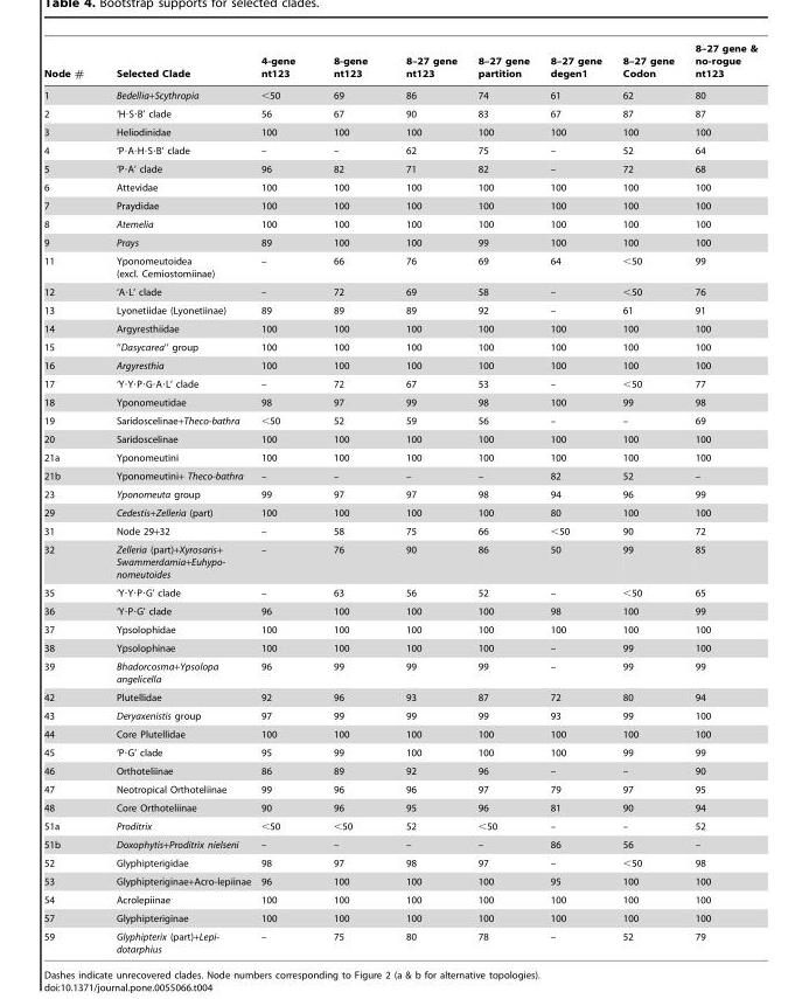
<table><thead><tr><td>Node #</td><td>Selected Clade</td><td>4-gene nt123</td><td>8-gene nt123</td><td>8–27 gene nt123</td><td>8–27 gene partition</td><td>8–27 gene degen1</td><td>8–27 gene Codon</td><td>8–27 gene &amp; no-rogue nt123</td></tr></thead><tbody><tr><td>1</td><td>Bedellia+Scythropia</td><td>&lt;50</td><td>69</td><td>86</td><td>74</td><td>61</td><td>62</td><td>80</td></tr><tr><td>2</td><td>‘H·S·B’ clade</td><td>56</td><td>67</td><td>90</td><td>83</td><td>67</td><td>87</td><td>87</td></tr><tr><td>3</td><td>Heliodinidae</td><td>100</td><td>100</td><td>100</td><td>100</td><td>100</td><td>100</td><td>100</td></tr><tr><td>4</td><td>‘P·A·H·S·B’ clade</td><td>–</td><td>–</td><td>62</td><td>75</td><td>–</td><td>52</td><td>64</td></tr><tr><td>5</td><td>‘P·A’ clade</td><td>96</td><td>82</td><td>71</td><td>82</td><td>–</td><td>72</td><td>68</td></tr><tr><td>6</td><td>Attevidae</td><td>100</td><td>100</td><td>100</td><td>100</td><td>100</td><td>100</td><td>100</td></tr><tr><td>7</td><td>Praydidae</td><td>100</td><td>100</td><td>100</td><td>100</td><td>100</td><td>100</td><td>100</td></tr><tr><td>8</td><td>Atemelia</td><td>100</td><td>100</td><td>100</td><td>100</td><td>100</td><td>100</td><td>100</td></tr><tr><td>9</td><td>Prays</td><td>89</td><td>100</td><td>100</td><td>99</td><td>100</td><td>100</td><td>100</td></tr><tr><td>11</td><td>Yponomeutoidea (excl. Cemiostomiinae)</td><td>–</td><td>66</td><td>76</td><td>69</td><td>64</td><td>&lt;50</td><td>99</td></tr><tr><td>12</td><td>‘A·L’ clade</td><td>–</td><td>72</td><td>69</td><td>58</td><td>–</td><td>&lt;50</td><td>76</td></tr><tr><td>13</td><td>Lyonetiidae (Lyonetiinae)</td><td>89</td><td>89</td><td>89</td><td>92</td><td>–</td><td>61</td><td>91</td></tr><tr><td>14</td><td>Argyresthiidae</td><td>100</td><td>100</td><td>100</td><td>100</td><td>100</td><td>100</td><td>100</td></tr><tr><td>15</td><td>‘‘Dasycarea’’ group</td><td>100</td><td>100</td><td>100</td><td>100</td><td>100</td><td>100</td><td>100</td></tr><tr><td>16</td><td>Argyresthia</td><td>100</td><td>100</td><td>100</td><td>100</td><td>100</td><td>100</td><td>100</td></tr><tr><td>17</td><td>‘Y·Y·P·G·A·L’ clade</td><td>–</td><td>72</td><td>67</td><td>53</td><td>–</td><td>&lt;50</td><td>77</td></tr><tr><td>18</td><td>Yponomeutidae</td><td>98</td><td>97</td><td>99</td><td>98</td><td>100</td><td>99</td><td>98</td></tr><tr><td>19</td><td>Saridoscelinae+Theco-bathra</td><td>&lt;50</td><td>52</td><td>59</td><td>56</td><td>–</td><td>–</td><td>69</td></tr><tr><td>20</td><td>Saridoscelinae</td><td>100</td><td>100</td><td>100</td><td>100</td><td>100</td><td>100</td><td>100</td></tr><tr><td>21a</td><td>Yponomeutini</td><td>100</td><td>100</td><td>100</td><td>100</td><td>100</td><td>100</td><td>100</td></tr><tr><td>21b</td><td>Yponomeutini+ Theco-bathra</td><td>–</td><td>–</td><td>–</td><td>–</td><td>82</td><td>52</td><td>–</td></tr><tr><td>23</td><td>Yponomeuta group</td><td>99</td><td>97</td><td>97</td><td>98</td><td>94</td><td>96</td><td>99</td></tr><tr><td>29</td><td>Cedestis+Zelleria (part)</td><td>100</td><td>100</td><td>100</td><td>100</td><td>80</td><td>100</td><td>100</td></tr><tr><td>31</td><td>Node 29+32</td><td>–</td><td>58</td><td>75</td><td>66</td><td>&lt;50</td><td>90</td><td>72</td></tr><tr><td>32</td><td>Zelleria (part)+Xyrosaris+ Swammerdamia+Euhypo- nomeutoides</td><td>–</td><td>76</td><td>90</td><td>86</td><td>50</td><td>99</td><td>85</td></tr><tr><td>35</td><td>‘Y·Y·P·G’ clade</td><td>–</td><td>63</td><td>56</td><td>52</td><td>–</td><td>&lt;50</td><td>65</td></tr><tr><td>36</td><td>‘Y·P·G’ clade</td><td>96</td><td>100</td><td>100</td><td>100</td><td>98</td><td>100</td><td>99</td></tr><tr><td>37</td><td>Ypsolophidae</td><td>100</td><td>100</td><td>100</td><td>100</td><td>100</td><td>100</td><td>100</td></tr><tr><td>38</td><td>Ypsolophinae</td><td>100</td><td>100</td><td>100</td><td>100</td><td>–</td><td>99</td><td>100</td></tr><tr><td>39</td><td>Bhadorcosma+Ypsolopa angelicella</td><td>96</td><td>99</td><td>99</td><td>99</td><td>–</td><td>99</td><td>99</td></tr><tr><td>42</td><td>Plutellidae</td><td>92</td><td>96</td><td>93</td><td>87</td><td>72</td><td>80</td><td>94</td></tr><tr><td>43</td><td>Deryaxenistis group</td><td>97</td><td>99</td><td>99</td><td>99</td><td>93</td><td>99</td><td>100</td></tr><tr><td>44</td><td>Core Plutellidae</td><td>100</td><td>100</td><td>100</td><td>100</td><td>100</td><td>100</td><td>100</td></tr><tr><td>45</td><td>‘P·G’ clade</td><td>95</td><td>99</td><td>100</td><td>100</td><td>100</td><td>99</td><td>99</td></tr><tr><td>46</td><td>Orthoteliinae</td><td>86</td><td>89</td><td>92</td><td>96</td><td>–</td><td>–</td><td>90</td></tr><tr><td>47</td><td>Neotropical Orthoteliinae</td><td>99</td><td>96</td><td>96</td><td>97</td><td>79</td><td>97</td><td>95</td></tr><tr><td>48</td><td>Core Orthoteliinae</td><td>90</td><td>96</td><td>95</td><td>96</td><td>81</td><td>90</td><td>94</td></tr><tr><td>51a</td><td>Proditrix</td><td>&lt;50</td><td>&lt;50</td><td>52</td><td>&lt;50</td><td>–</td><td>–</td><td>52</td></tr><tr><td>51b</td><td>Doxophytis+Proditrix nielseni</td><td>–</td><td>–</td><td>–</td><td>–</td><td>86</td><td>56</td><td>–</td></tr><tr><td>52</td><td>Glyphipterigidae</td><td>98</td><td>97</td><td>98</td><td>97</td><td>–</td><td>&lt;50</td><td>98</td></tr><tr><td>53</td><td>Glyphipteriginae+Acro-lepiinae</td><td>96</td><td>100</td><td>100</td><td>100</td><td>95</td><td>100</td><td>100</td></tr><tr><td>54</td><td>Acrolepiinae</td><td>100</td><td>100</td><td>100</td><td>100</td><td>100</td><td>100</td><td>100</td></tr><tr><td>57</td><td>Glyphipteriginae</td><td>100</td><td>100</td><td>100</td><td>100</td><td>100</td><td>100</td><td>100</td></tr><tr><td>59</td><td>Glyphipterix (part)+Lepi- dotarphius</td><td>–</td><td>75</td><td>80</td><td>78</td><td>–</td><td>52</td><td>79</td></tr></tbody></table>